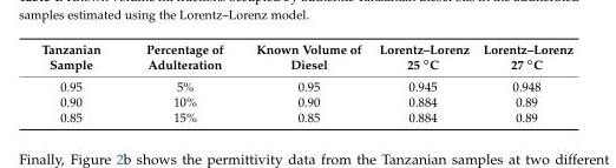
<table><thead><tr><td>Tanzanian Sample</td><td>Percentage of Adulteration</td><td>Known Volume of Diesel</td><td>Lorentz–Lorenz 25 ◦C</td><td>Lorentz–Lorenz 27 ◦C</td></tr></thead><tbody><tr><td>0.95</td><td>5%</td><td>0.95</td><td>0.945</td><td>0.948</td></tr><tr><td>0.90</td><td>10%</td><td>0.90</td><td>0.884</td><td>0.89</td></tr><tr><td>0.85</td><td>15%</td><td>0.85</td><td>0.884</td><td>0.89</td></tr></tbody></table>